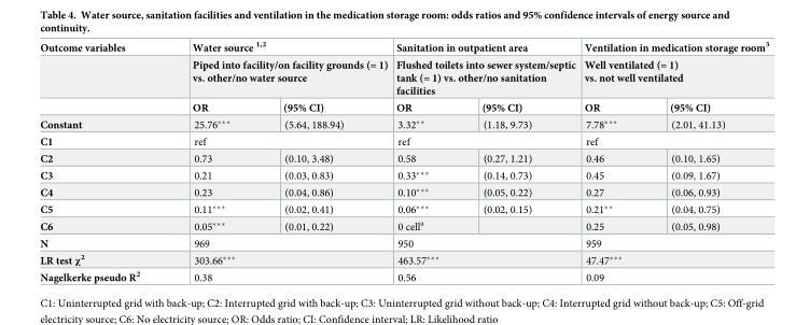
<table><thead><tr><td rowspan="3">Outcome variables</td><td rowspan="2" colspan="2">Water source <sup>1,2</sup> Piped into facility/on facility grounds (= 1) vs. other/no water source</td><td rowspan="2" colspan="2">Sanitation in outpatient area Flushed toilets into sewer system/septic tank (= 1) vs. other/no sanitation facilities</td><td rowspan="2" colspan="2">Ventilation in medication storage room<sup>3</sup> Well ventilated (= 1) vs. not well ventilated</td></tr><tr></tr><tr><td>OR</td><td>(95% CI)</td><td>OR</td><td>(95% CI)</td><td>OR</td><td>(95% CI)</td></tr></thead><tbody><tr><td>Constant</td><td>25.76***</td><td>(5.64, 188.94)</td><td>3.32**</td><td>(1.18, 9.73)</td><td>7.78***</td><td>(2.01, 41.13)</td></tr><tr><td>C1</td><td colspan="2">ref</td><td colspan="2">ref</td><td colspan="2">ref</td></tr><tr><td>C2</td><td>0.73</td><td>(0.10, 3.48)</td><td>0.58</td><td>(0.27, 1.21)</td><td>0.46</td><td>(0.10, 1.65)</td></tr><tr><td>C3</td><td>0.21</td><td>(0.03, 0.83)</td><td>0.33***</td><td>(0.14, 0.73)</td><td>0.45</td><td>(0.09, 1.67)</td></tr><tr><td>C4</td><td>0.23</td><td>(0.04, 0.86)</td><td>0.10***</td><td>(0.05, 0.22)</td><td>0.27</td><td>(0.06, 0.93)</td></tr><tr><td>C5</td><td>0.11***</td><td>(0.02, 0.41)</td><td>0.06***</td><td>(0.02, 0.15)</td><td>0.21**</td><td>(0.04, 0.75)</td></tr><tr><td>C6</td><td>0.05***</td><td>(0.01, 0.22)</td><td>0 cell<sup>a</sup></td><td></td><td>0.25</td><td>(0.05, 0.98)</td></tr><tr><td>N</td><td colspan="2">969</td><td colspan="2">950</td><td colspan="2">959</td></tr><tr><td>LR test χ<sup>2</sup></td><td colspan="2">303.66***</td><td colspan="2">463.57***</td><td colspan="2">47.47***</td></tr><tr><td>Nagelkerke pseudo R<sup>2</sup></td><td colspan="2">0.38</td><td colspan="2">0.56</td><td colspan="2">0.09</td></tr></tbody></table>